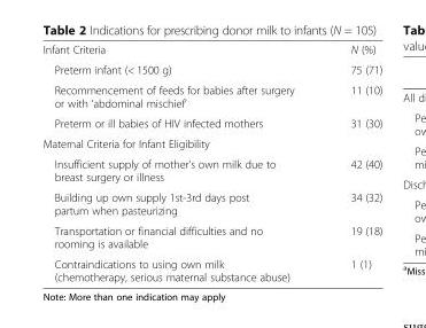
<table><tbody><tr><td>Infant Criteria</td><td>N (%)</td></tr><tr><td>Preterm infant (&lt; 1500 g)</td><td>75 (71)</td></tr><tr><td>Recommencement of feeds for babies after surgery or with ‘abdominal mischief’</td><td>11 (10)</td></tr><tr><td>Preterm or ill babies of HIV infected mothers</td><td>31 (30)</td></tr><tr><td colspan="2">Maternal Criteria for Infant Eligibility</td></tr><tr><td>Insufficient supply of mother’s own milk due to breast surgery or illness</td><td>42 (40)</td></tr><tr><td>Building up own supply 1st-3rd days post partum when pasteurizing</td><td>34 (32)</td></tr><tr><td>Transportation or financial difficulties and no rooming is available</td><td>19 (18)</td></tr><tr><td>Contraindications to using own milk (chemotherapy, serious maternal substance abuse)</td><td>1 (1)</td></tr></tbody></table>